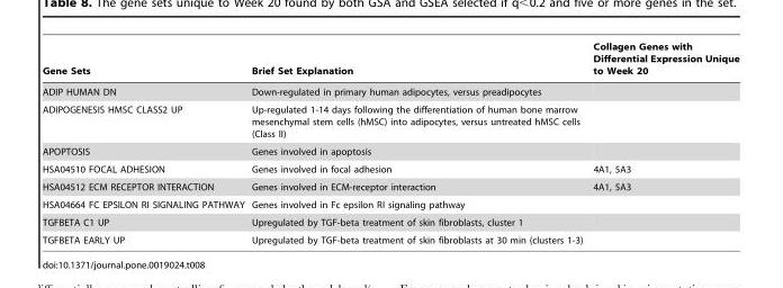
<table><thead><tr><td>Gene Sets</td><td>Brief Set Explanation</td><td>Collagen Genes with Differential Expression Unique to Week 20</td></tr></thead><tbody><tr><td>ADIP HUMAN DN</td><td>Down-regulated in primary human adipocytes, versus preadipocytes</td><td></td></tr><tr><td>ADIPOGENESIS HMSC CLASS2 UP</td><td>Up-regulated 1-14 days following the differentiation of human bone marrow mesenchymal stem cells (hMSC) into adipocytes, versus untreated hMSC cells (Class II)</td><td></td></tr><tr><td>APOPTOSIS</td><td>Genes involved in apoptosis</td><td></td></tr><tr><td>HSA04510 FOCAL ADHESION</td><td>Genes involved in focal adhesion</td><td>4A1, 5A3</td></tr><tr><td>HSA04512 ECM RECEPTOR INTERACTION</td><td>Genes involved in ECM-receptor interaction</td><td>4A1, 5A3</td></tr><tr><td>HSA04664 FC EPSILON RI SIGNALING PATHWAY</td><td>Genes involved in Fc epsilon RI signaling pathway</td><td></td></tr><tr><td>TGFBETA C1 UP</td><td>Upregulated by TGF-beta treatment of skin fibroblasts, cluster 1</td><td></td></tr><tr><td>TGFBETA EARLY UP</td><td>Upregulated by TGF-beta treatment of skin fibroblasts at 30 min (clusters 1-3)</td><td></td></tr></tbody></table>